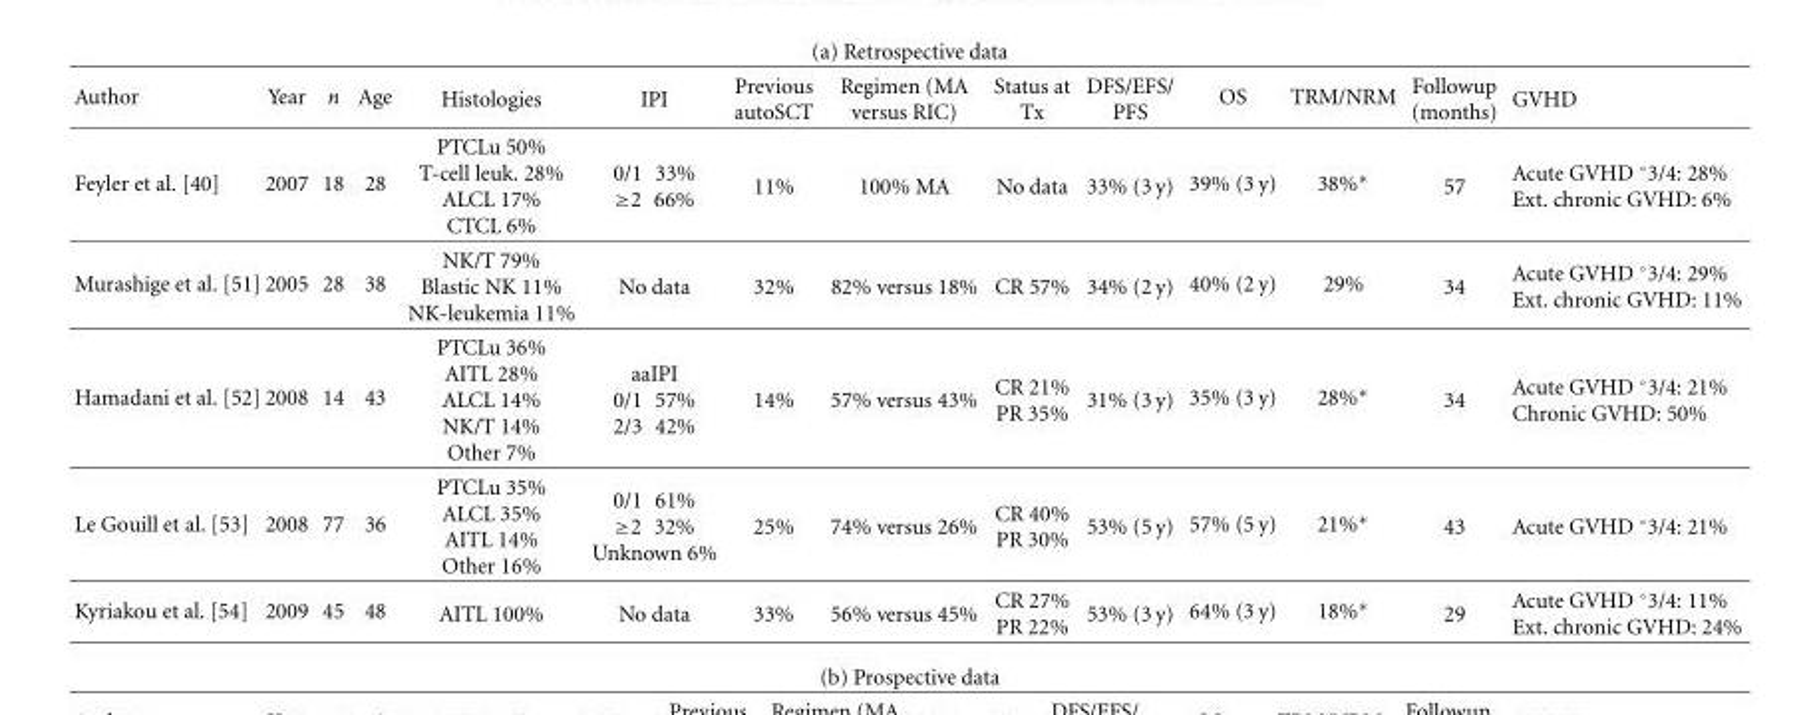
<table><thead><tr><td>Author</td><td>Year</td><td>n</td><td>Age</td><td>Histologies</td><td>IPI</td><td>Previous autoSCT</td><td>Regimen (MA versus RIC)</td><td>Status at Tx</td><td>DFS/EFS/ PFS</td><td>OS</td><td>TRM/NRM</td><td>Followup (months)</td><td>GVHD</td></tr></thead><tbody><tr><td>Feyler et al. [40]</td><td>2007</td><td>18</td><td>28</td><td>PTCLu 50% T-cell leuk. 28% ALCL 17% CTCL 6%</td><td>0/1 33% ≥2 66%</td><td>11%</td><td>100% MA</td><td>No data</td><td>33% (3 y)</td><td>39% (3 y)</td><td>38%∗</td><td>57</td><td>Acute GVHD ◦3/4: 28% Ext. chronic GVHD: 6%</td></tr><tr><td>Murashige et al. [51]</td><td>2005</td><td>28</td><td>38</td><td>NK/T 79% Blastic NK 11% NK-leukemia 11%</td><td>No data</td><td>32%</td><td>82% versus 18%</td><td>CR 57%</td><td>34% (2 y)</td><td>40% (2 y)</td><td>29%</td><td>34</td><td>Acute GVHD ◦3/4: 29% Ext. chronic GVHD: 11%</td></tr><tr><td>Hamadani et al. [52]</td><td>2008</td><td>14</td><td>43</td><td>PTCLu 36% AITL 28% ALCL 14% NK/T 14% Other 7%</td><td>aaIPI 0/1 57% 2/3 42%</td><td>14%</td><td>57% versus 43%</td><td>CR 21% PR 35%</td><td>31% (3 y)</td><td>35% (3 y)</td><td>28%∗</td><td>34</td><td>Acute GVHD ◦3/4: 21% Chronic GVHD: 50%</td></tr><tr><td>Le Gouill et al. [53]</td><td>2008</td><td>77</td><td>36</td><td>PTCLu 35% ALCL 35% AITL 14% Other 16%</td><td>0/1 61% ≥2 32% Unknown 6%</td><td>25%</td><td>74% versus 26%</td><td>CR 40% PR 30%</td><td>53% (5 y)</td><td>57% (5 y)</td><td>21%∗</td><td>43</td><td>Acute GVHD ◦3/4: 21%</td></tr><tr><td>Kyriakou et al. [54]</td><td>2009</td><td>45</td><td>48</td><td>AITL 100%</td><td>No data</td><td>33%</td><td>56% versus 45%</td><td>CR 27% PR 22%</td><td>53% (3 y)</td><td>64% (3 y)</td><td>18%∗</td><td>29</td><td>Acute GVHD ◦3/4: 11% Ext. chronic GVHD: 24%</td></tr></tbody></table>